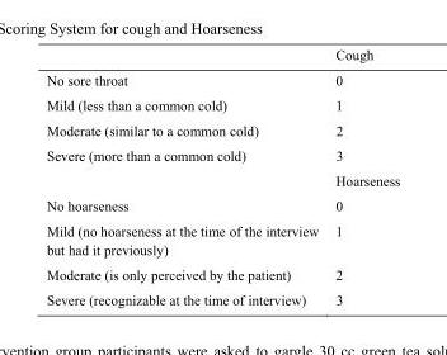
<table><thead><tr><td></td><td>Cough</td></tr></thead><tbody><tr><td>No sore throat</td><td>0</td></tr><tr><td>Mild (less than a common cold)</td><td>1</td></tr><tr><td>Moderate (similar to a common cold)</td><td>2</td></tr><tr><td rowspan="2">Severe (more than a common cold)</td><td>3</td></tr><tr><td>Hoarseness</td></tr><tr><td>No hoarseness</td><td>0</td></tr><tr><td>Mild (no hoarseness at the time of the interview but had it previously)</td><td>1</td></tr><tr><td>Moderate (is only perceived by the patient)</td><td>2</td></tr><tr><td>Severe (recognizable at the time of interview)</td><td>3</td></tr></tbody></table>